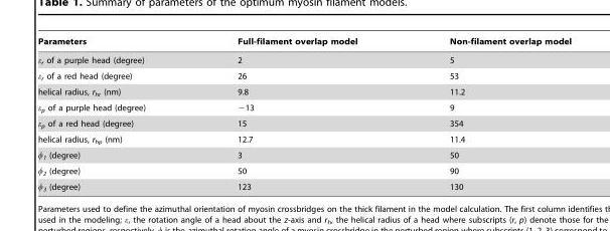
<table><thead><tr><td>Parameters</td><td>Full-filament overlap model</td><td>Non-filament overlap model</td></tr></thead><tbody><tr><td>ε<sub>r</sub> of a purple head (degree)</td><td>2</td><td>5</td></tr><tr><td>ε<sub>r</sub> of a red head (degree)</td><td>26</td><td>53</td></tr><tr><td>helical radius, r<sub>hr</sub> (nm)</td><td>9.8</td><td>11.2</td></tr><tr><td>ε<sub>p</sub> of a purple head (degree)</td><td>−13</td><td>9</td></tr><tr><td>ε<sub>p</sub> of a red head (degree)</td><td>15</td><td>354</td></tr><tr><td>helical radius, r<sub>hp</sub> (nm)</td><td>12.7</td><td>11.4</td></tr><tr><td>φ<sub>1</sub> (degree)</td><td>3</td><td>50</td></tr><tr><td>φ<sub>2</sub> (degree)</td><td>50</td><td>90</td></tr><tr><td>φ<sub>3</sub> (degree)</td><td>123</td><td>130</td></tr></tbody></table>